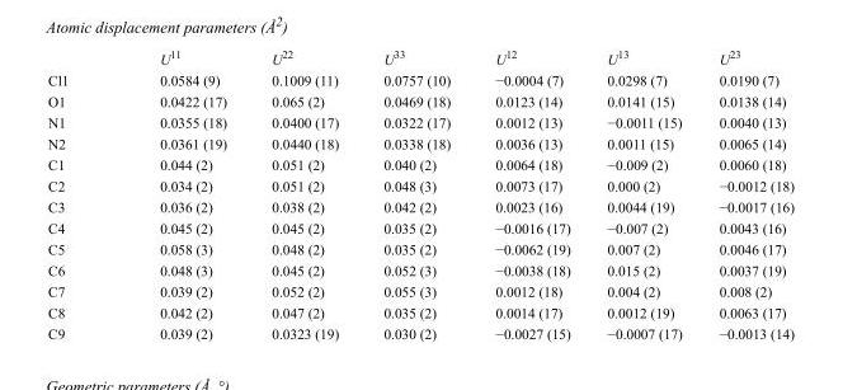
<table><thead><tr><td></td><td>U<sup>11</sup></td><td>U<sup>22</sup></td><td>U<sup>33</sup></td><td>U<sup>12</sup></td><td>U<sup>13</sup></td><td>U<sup>23</sup></td></tr></thead><tbody><tr><td>Cl1</td><td>0.0584 (9)</td><td>0.1009 (11)</td><td>0.0757 (10)</td><td>−0.0004 (7)</td><td>0.0298 (7)</td><td>0.0190 (7)</td></tr><tr><td>O1</td><td>0.0422 (17)</td><td>0.065 (2)</td><td>0.0469 (18)</td><td>0.0123 (14)</td><td>0.0141 (15)</td><td>0.0138 (14)</td></tr><tr><td>N1</td><td>0.0355 (18)</td><td>0.0400 (17)</td><td>0.0322 (17)</td><td>0.0012 (13)</td><td>−0.0011 (15)</td><td>0.0040 (13)</td></tr><tr><td>N2</td><td>0.0361 (19)</td><td>0.0440 (18)</td><td>0.0338 (18)</td><td>0.0036 (13)</td><td>0.0011 (15)</td><td>0.0065 (14)</td></tr><tr><td>C1</td><td>0.044 (2)</td><td>0.051 (2)</td><td>0.040 (2)</td><td>0.0064 (18)</td><td>−0.009 (2)</td><td>0.0060 (18)</td></tr><tr><td>C2</td><td>0.034 (2)</td><td>0.051 (2)</td><td>0.048 (3)</td><td>0.0073 (17)</td><td>0.000 (2)</td><td>−0.0012 (18)</td></tr><tr><td>C3</td><td>0.036 (2)</td><td>0.038 (2)</td><td>0.042 (2)</td><td>0.0023 (16)</td><td>0.0044 (19)</td><td>−0.0017 (16)</td></tr><tr><td>C4</td><td>0.045 (2)</td><td>0.045 (2)</td><td>0.035 (2)</td><td>−0.0016 (17)</td><td>−0.007 (2)</td><td>0.0043 (16)</td></tr><tr><td>C5</td><td>0.058 (3)</td><td>0.048 (2)</td><td>0.035 (2)</td><td>−0.0062 (19)</td><td>0.007 (2)</td><td>0.0046 (17)</td></tr><tr><td>C6</td><td>0.048 (3)</td><td>0.045 (2)</td><td>0.052 (3)</td><td>−0.0038 (18)</td><td>0.015 (2)</td><td>0.0037 (19)</td></tr><tr><td>C7</td><td>0.039 (2)</td><td>0.052 (2)</td><td>0.055 (3)</td><td>0.0012 (18)</td><td>0.004 (2)</td><td>0.008 (2)</td></tr><tr><td>C8</td><td>0.042 (2)</td><td>0.047 (2)</td><td>0.035 (2)</td><td>0.0014 (17)</td><td>0.0012 (19)</td><td>0.0063 (17)</td></tr><tr><td>C9</td><td>0.039 (2)</td><td>0.0323 (19)</td><td>0.030 (2)</td><td>−0.0027 (15)</td><td>−0.0007 (17)</td><td>−0.0013 (14)</td></tr></tbody></table>